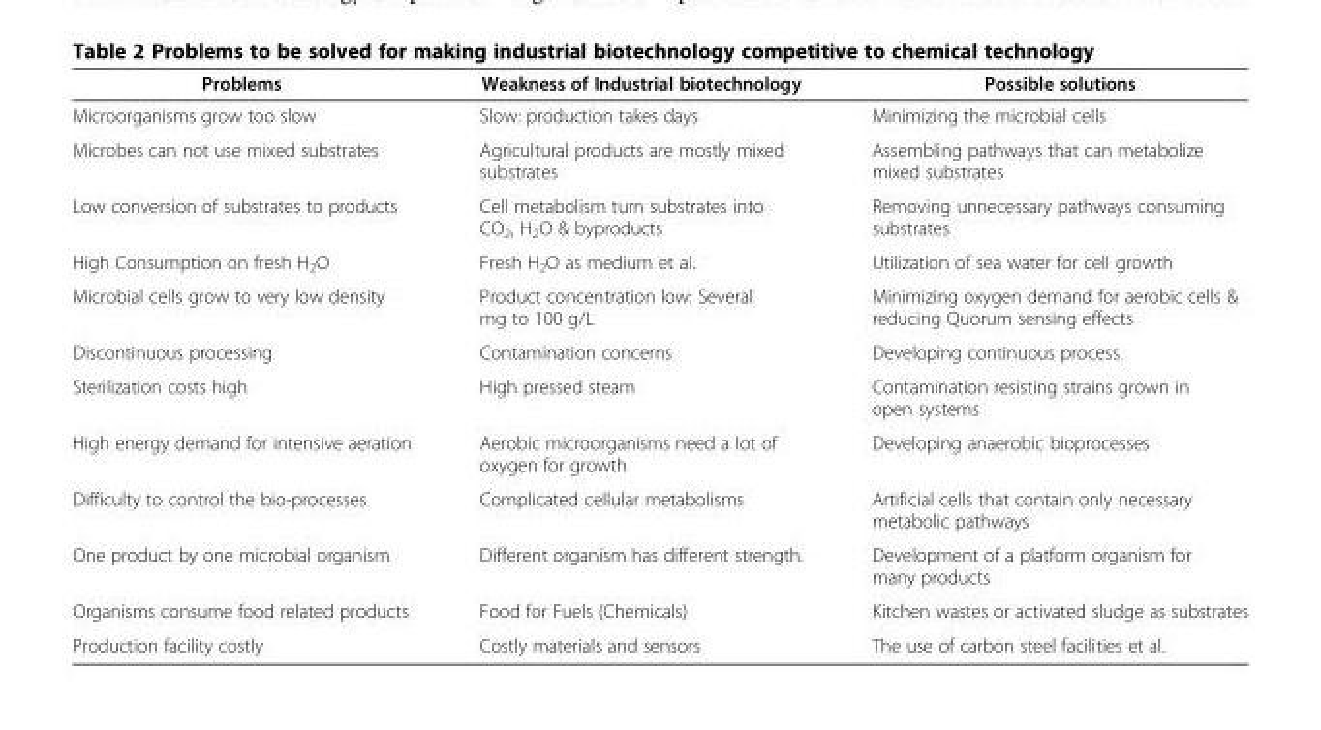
<table><thead><tr><td>Problems</td><td>Weakness of Industrial biotechnology</td><td>Possible solutions</td></tr></thead><tbody><tr><td>Microorganisms grow too slow</td><td>Slow: production takes days</td><td>Minimizing the microbial cells</td></tr><tr><td>Microbes can not use mixed substrates</td><td>Agricultural products are mostly mixed substrates</td><td>Assembling pathways that can metabolize mixed substrates</td></tr><tr><td>Low conversion of substrates to products</td><td>Cell metabolism turn substrates into CO<sub>2</sub>, H<sub>2</sub>O &amp; byproducts</td><td>Removing unnecessary pathways consuming substrates</td></tr><tr><td>High Consumption on fresh H<sub>2</sub>O</td><td>Fresh H<sub>2</sub>O as medium et al.</td><td>Utilization of sea water for cell growth</td></tr><tr><td>Microbial cells grow to very low density</td><td>Product concentration low: Several mg to 100 g/L</td><td>Minimizing oxygen demand for aerobic cells &amp; reducing Quorum sensing effects</td></tr><tr><td>Discontinuous processing</td><td>Contamination concerns</td><td>Developing continuous process</td></tr><tr><td>Sterilization costs high</td><td>High pressed steam</td><td>Contamination resisting strains grown in open systems</td></tr><tr><td>High energy demand for intensive aeration</td><td>Aerobic microorganisms need a lot of oxygen for growth</td><td>Developing anaerobic bioprocesses</td></tr><tr><td>Difficulty to control the bio-processes</td><td>Complicated cellular metabolisms</td><td>Artificial cells that contain only necessary metabolic pathways</td></tr><tr><td>One product by one microbial organism</td><td>Different organism has different strength.</td><td>Development of a platform organism for many products</td></tr><tr><td>Organisms consume food related products</td><td>Food for Fuels (Chemicals)</td><td>Kitchen wastes or activated sludge as substrates</td></tr><tr><td>Production facility costly</td><td>Costly materials and sensors</td><td>The use of carbon steel facilities et al.</td></tr></tbody></table>